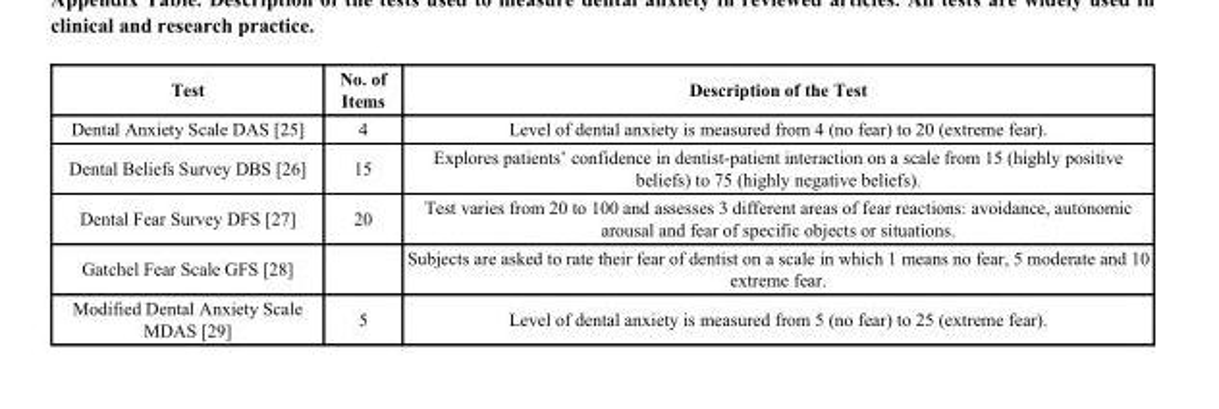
<table><thead><tr><td>Test</td><td>No. of Items</td><td>Description of the Test</td></tr></thead><tbody><tr><td>Dental Anxiety Scale DAS [25]</td><td>4</td><td>Level of dental anxiety is measured from 4 (no fear) to 20 (extreme fear).</td></tr><tr><td>Dental Beliefs Survey DBS [26]</td><td>15</td><td>Explores patients’ confidence in dentist-patient interaction on a scale from 15 (highly positive beliefs) to 75 (highly negative beliefs).</td></tr><tr><td>Dental Fear Survey DFS [27]</td><td>20</td><td>Test varies from 20 to 100 and assesses 3 different areas of fear reactions: avoidance, autonomic arousal and fear of specific objects or situations.</td></tr><tr><td>Gatchel Fear Scale GFS [28]</td><td></td><td>Subjects are asked to rate their fear of dentist on a scale in which 1 means no fear, 5 moderate and 10 extreme fear.</td></tr><tr><td>Modified Dental Anxiety Scale MDAS [29]</td><td>5</td><td>Level of dental anxiety is measured from 5 (no fear) to 25 (extreme fear).</td></tr></tbody></table>